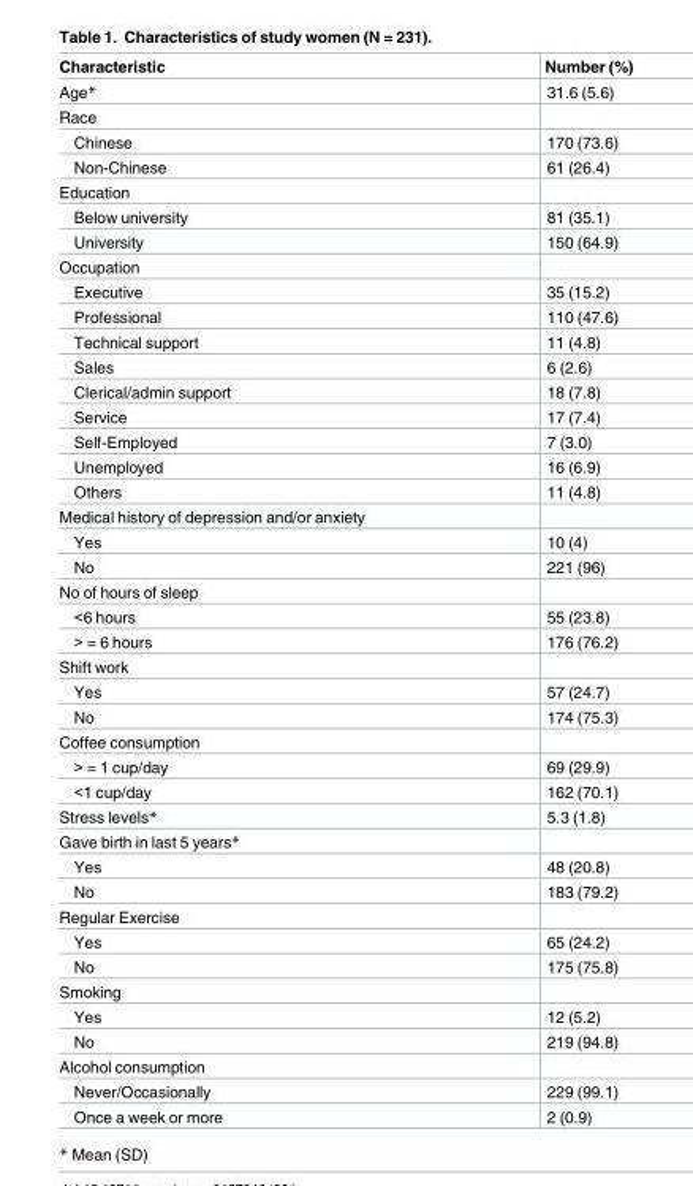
<table><thead><tr><td>Characteristic</td><td>Number (%)</td></tr></thead><tbody><tr><td>Age*</td><td>31.6 (5.6)</td></tr><tr><td colspan="2">Race</td></tr><tr><td>Chinese</td><td>170 (73.6)</td></tr><tr><td>Non-Chinese</td><td>61 (26.4)</td></tr><tr><td colspan="2">Education</td></tr><tr><td>Below university</td><td>81 (35.1)</td></tr><tr><td>University</td><td>150 (64.9)</td></tr><tr><td colspan="2">Occupation</td></tr><tr><td>Executive</td><td>35 (15.2)</td></tr><tr><td>Professional</td><td>110 (47.6)</td></tr><tr><td>Technical support</td><td>11 (4.8)</td></tr><tr><td>Sales</td><td>6 (2.6)</td></tr><tr><td>Clerical/admin support</td><td>18 (7.8)</td></tr><tr><td>Service</td><td>17 (7.4)</td></tr><tr><td>Self-Employed</td><td>7 (3.0)</td></tr><tr><td>Unemployed</td><td>16 (6.9)</td></tr><tr><td>Others</td><td>11 (4.8)</td></tr><tr><td colspan="2">Medical history of depression and/or anxiety</td></tr><tr><td>Yes</td><td>10 (4)</td></tr><tr><td>No</td><td>221 (96)</td></tr><tr><td colspan="2">No of hours of sleep</td></tr><tr><td>&lt;6 hours</td><td>55 (23.8)</td></tr><tr><td>&gt; = 6 hours</td><td>176 (76.2)</td></tr><tr><td colspan="2">Shift work</td></tr><tr><td>Yes</td><td>57 (24.7)</td></tr><tr><td>No</td><td>174 (75.3)</td></tr><tr><td colspan="2">Coffee consumption</td></tr><tr><td>&gt; = 1 cup/day</td><td>69 (29.9)</td></tr><tr><td>&lt;1 cup/day</td><td>162 (70.1)</td></tr><tr><td>Stress levels*</td><td>5.3 (1.8)</td></tr><tr><td colspan="2">Gave birth in last 5 years*</td></tr><tr><td>Yes</td><td>48 (20.8)</td></tr><tr><td>No</td><td>183 (79.2)</td></tr><tr><td colspan="2">Regular Exercise</td></tr><tr><td>Yes</td><td>65 (24.2)</td></tr><tr><td>No</td><td>175 (75.8)</td></tr><tr><td colspan="2">Smoking</td></tr><tr><td>Yes</td><td>12 (5.2)</td></tr><tr><td>No</td><td>219 (94.8)</td></tr><tr><td colspan="2">Alcohol consumption</td></tr><tr><td>Never/Occasionally</td><td>229 (99.1)</td></tr><tr><td>Once a week or more</td><td>2 (0.9)</td></tr></tbody></table>